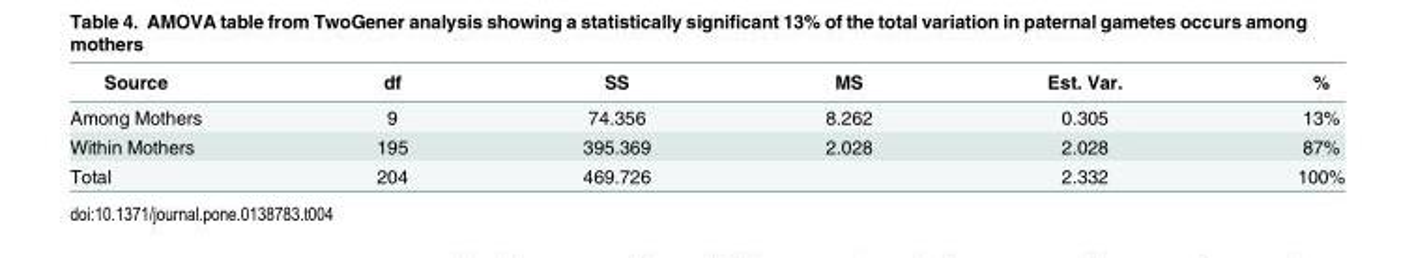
<table><thead><tr><td>Source</td><td>df</td><td>SS</td><td>MS</td><td>Est. Var.</td><td>%</td></tr></thead><tbody><tr><td>Among Mothers</td><td>9</td><td>74.356</td><td>8.262</td><td>0.305</td><td>13%</td></tr><tr><td>Within Mothers</td><td>195</td><td>395.369</td><td>2.028</td><td>2.028</td><td>87%</td></tr><tr><td>Total</td><td>204</td><td>469.726</td><td></td><td>2.332</td><td>100%</td></tr></tbody></table>